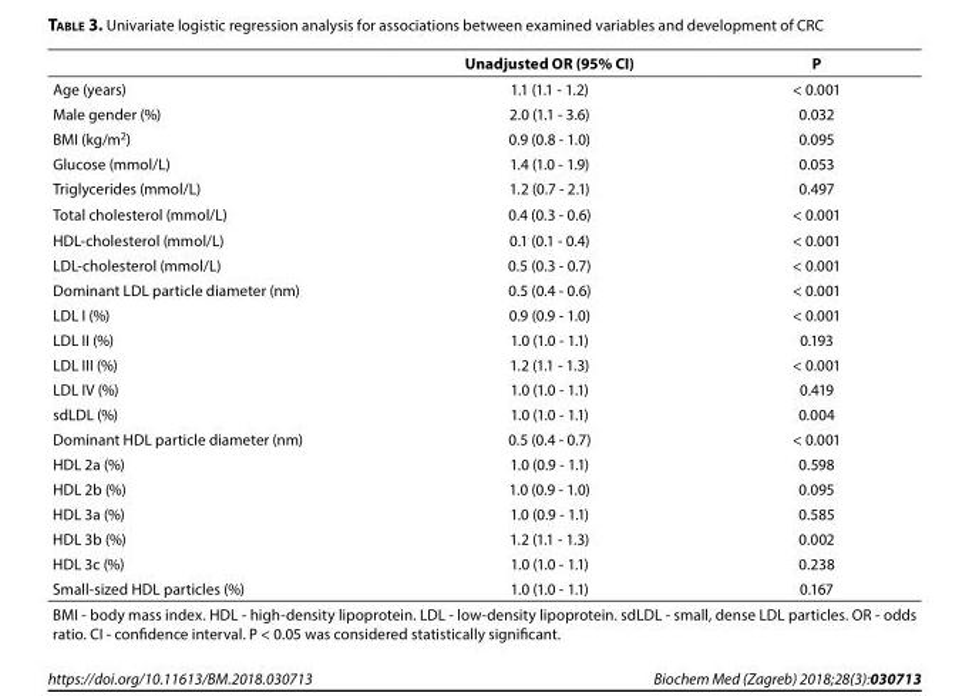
<table><thead><tr><td></td><td>Unadjusted OR (95% CI)</td><td>P</td></tr></thead><tbody><tr><td>Age (years)</td><td>1.1 (1.1 - 1.2)</td><td>&lt; 0.001</td></tr><tr><td>Male gender (%)</td><td>2.0 (1.1 - 3.6)</td><td>0.032</td></tr><tr><td>BMI (kg/m<sup>2</sup>)</td><td>0.9 (0.8 - 1.0)</td><td>0.095</td></tr><tr><td>Glucose (mmol/L)</td><td>1.4 (1.0 - 1.9)</td><td>0.053</td></tr><tr><td>Triglycerides (mmol/L)</td><td>1.2 (0.7 - 2.1)</td><td>0.497</td></tr><tr><td>Total cholesterol (mmol/L)</td><td>0.4 (0.3 - 0.6)</td><td>&lt; 0.001</td></tr><tr><td>HDL-cholesterol (mmol/L)</td><td>0.1 (0.1 - 0.4)</td><td>&lt; 0.001</td></tr><tr><td>LDL-cholesterol (mmol/L)</td><td>0.5 (0.3 - 0.7)</td><td>&lt; 0.001</td></tr><tr><td>Dominant LDL particle diameter (nm)</td><td>0.5 (0.4 - 0.6)</td><td>&lt; 0.001</td></tr><tr><td>LDL I (%)</td><td>0.9 (0.9 - 1.0)</td><td>&lt; 0.001</td></tr><tr><td>LDL II (%)</td><td>1.0 (1.0 - 1.1)</td><td>0.193</td></tr><tr><td>LDL III (%)</td><td>1.2 (1.1 - 1.3)</td><td>&lt; 0.001</td></tr><tr><td>LDL IV (%)</td><td>1.0 (1.0 - 1.1)</td><td>0.419</td></tr><tr><td>sdLDL (%)</td><td>1.0 (1.0 - 1.1)</td><td>0.004</td></tr><tr><td>Dominant HDL particle diameter (nm)</td><td>0.5 (0.4 - 0.7)</td><td>&lt; 0.001</td></tr><tr><td>HDL 2a (%)</td><td>1.0 (0.9 - 1.1)</td><td>0.598</td></tr><tr><td>HDL 2b (%)</td><td>1.0 (0.9 - 1.0)</td><td>0.095</td></tr><tr><td>HDL 3a (%)</td><td>1.0 (0.9 - 1.1)</td><td>0.585</td></tr><tr><td>HDL 3b (%)</td><td>1.2 (1.1 - 1.3)</td><td>0.002</td></tr><tr><td>HDL 3c (%)</td><td>1.0 (1.0 - 1.1)</td><td>0.238</td></tr><tr><td>Small-sized HDL particles (%)</td><td>1.0 (1.0 - 1.1)</td><td>0.167</td></tr><tr><td colspan="3">BMI - body mass index. HDL - high-density lipoprotein. LDL - low-density lipoprotein. sdLDL - small, dense LDL particles. OR - odds ratio. CI - confidence interval. P &lt; 0.05 was considered statistically significant.</td></tr></tbody></table>